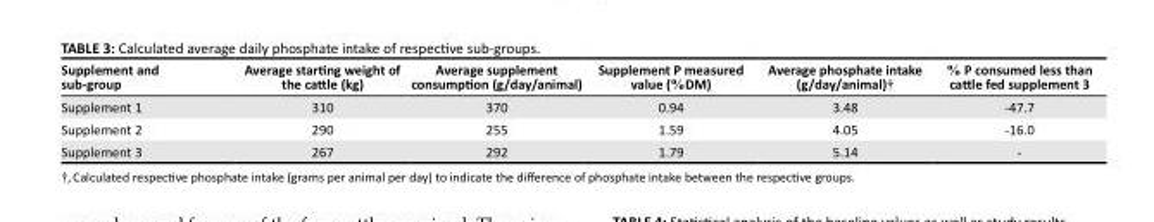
<table><thead><tr><td>Supplement and sub-group</td><td>Average starting weight of the cattle (kg)</td><td>Average supplement consumption (g/day/animal)</td><td>Supplement P measured value (%DM)</td><td>Average phosphate intake (g/day/animal)†</td><td>% P consumed less than cattle fed supplement 3</td></tr></thead><tbody><tr><td>Supplement 1</td><td>310</td><td>370</td><td>0.94</td><td>3.48</td><td>-47.7</td></tr><tr><td>Supplement 2</td><td>290</td><td>255</td><td>1.59</td><td>4.05</td><td>-16.0</td></tr><tr><td>Supplement 3</td><td>267</td><td>292</td><td>1.79</td><td>5.14</td><td>-</td></tr></tbody></table>